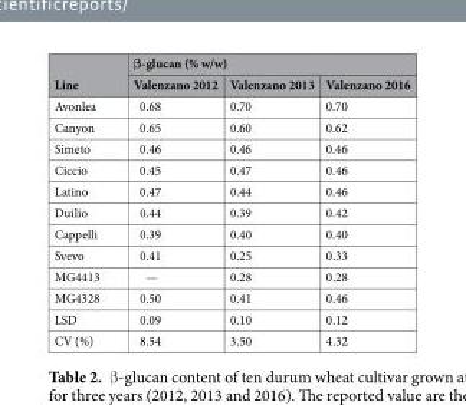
<table><thead><tr><td rowspan="2">Line</td><td colspan="3">β-glucan (% w/w)</td></tr><tr><td>Valenzano 2012</td><td>Valenzano 2013</td><td>Valenzano 2016</td></tr></thead><tbody><tr><td>Avonlea</td><td>0.68</td><td>0.70</td><td>0.70</td></tr><tr><td>Canyon</td><td>0.65</td><td>0.60</td><td>0.62</td></tr><tr><td>Simeto</td><td>0.46</td><td>0.46</td><td>0.46</td></tr><tr><td>Ciccio</td><td>0.45</td><td>0.47</td><td>0.46</td></tr><tr><td>Latino</td><td>0.47</td><td>0.44</td><td>0.46</td></tr><tr><td>Duilio</td><td>0.44</td><td>0.39</td><td>0.42</td></tr><tr><td>Cappelli</td><td>0.39</td><td>0.40</td><td>0.40</td></tr><tr><td>Svevo</td><td>0.41</td><td>0.25</td><td>0.33</td></tr><tr><td>MG4413</td><td>—</td><td>0.28</td><td>0.28</td></tr><tr><td>MG4328</td><td>0.50</td><td>0.41</td><td>0.46</td></tr><tr><td>LSD</td><td>0.09</td><td>0.10</td><td>0.12</td></tr><tr><td>CV (%)</td><td>8.54</td><td>3.50</td><td>4.32</td></tr></tbody></table>